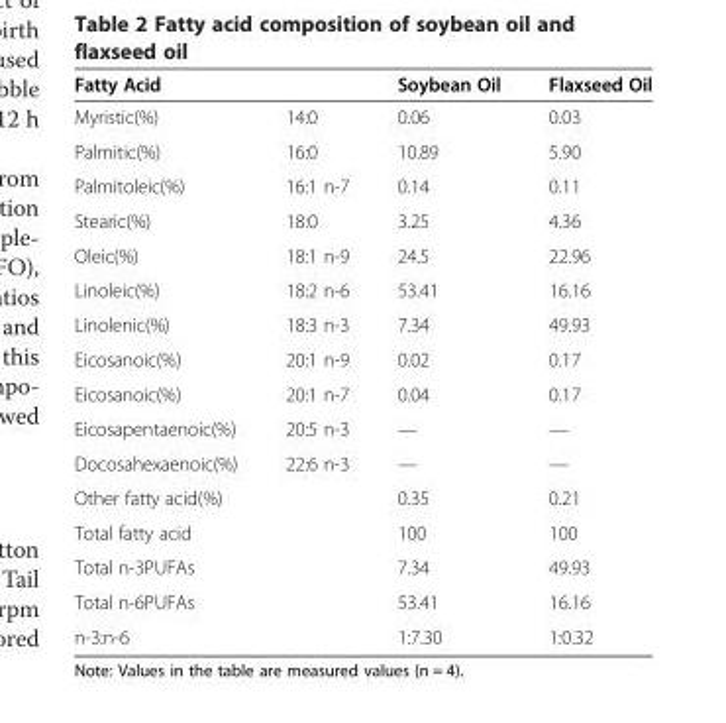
<table><thead><tr><td>Fatty Acid</td><td></td><td>Soybean Oil</td><td>Flaxseed Oil</td></tr></thead><tbody><tr><td>Myristic(%)</td><td>14:0</td><td>0.06</td><td>0.03</td></tr><tr><td>Palmitic(%)</td><td>16:0</td><td>10.89</td><td>5.90</td></tr><tr><td>Palmitoleic(%)</td><td>16:1 n-7</td><td>0.14</td><td>0.11</td></tr><tr><td>Stearic(%)</td><td>18:0</td><td>3.25</td><td>4.36</td></tr><tr><td>Oleic(%)</td><td>18:1 n-9</td><td>24.5</td><td>22.96</td></tr><tr><td>Linoleic(%)</td><td>18:2 n-6</td><td>53.41</td><td>16.16</td></tr><tr><td>Linolenic(%)</td><td>18:3 n-3</td><td>7.34</td><td>49.93</td></tr><tr><td>Eicosanoic(%)</td><td>20:1 n-9</td><td>0.02</td><td>0.17</td></tr><tr><td>Eicosanoic(%)</td><td>20:1 n-7</td><td>0.04</td><td>0.17</td></tr><tr><td>Eicosapentaenoic(%)</td><td>20:5 n-3</td><td>—</td><td>—</td></tr><tr><td>Docosahexaenoic(%)</td><td>22:6 n-3</td><td>—</td><td>—</td></tr><tr><td>Other fatty acid(%)</td><td></td><td>0.35</td><td>0.21</td></tr><tr><td>Total fatty acid</td><td></td><td>100</td><td>100</td></tr><tr><td>Total n-3PUFAs</td><td></td><td>7.34</td><td>49.93</td></tr><tr><td>Total n-6PUFAs</td><td></td><td>53.41</td><td>16.16</td></tr><tr><td>n-3:n-6</td><td></td><td>1:7.30</td><td>1:0.32</td></tr></tbody></table>